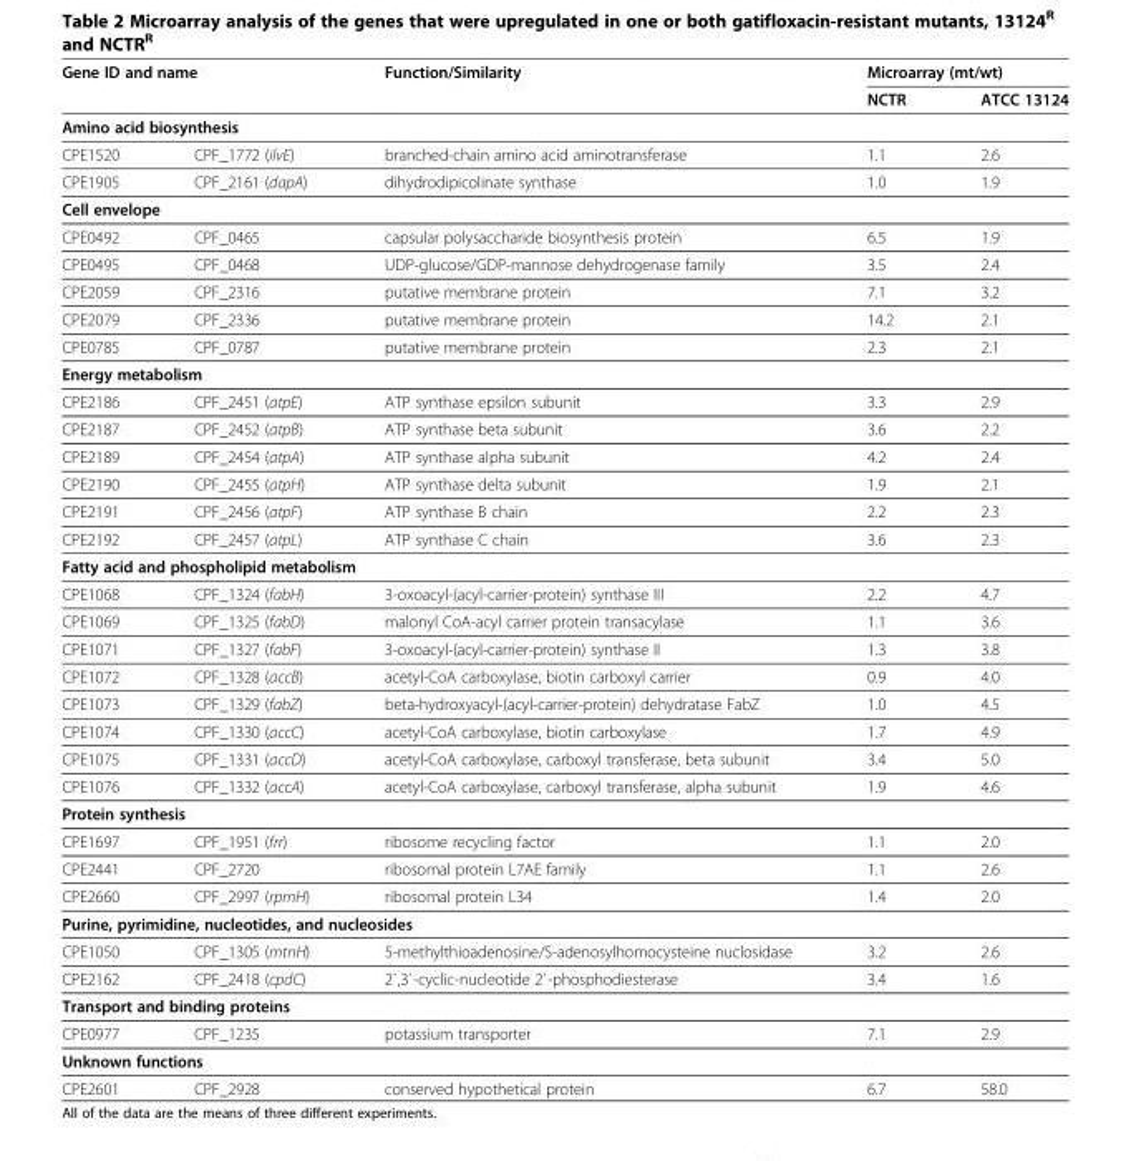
<table><thead><tr><td colspan="2">Gene ID and name</td><td rowspan="2">Function/Similarity</td><td colspan="2">Microarray (mt/wt)</td></tr><tr><td></td><td></td><td>NCTR</td><td>ATCC 13124</td></tr></thead><tbody><tr><td colspan="5">Amino acid biosynthesis</td></tr><tr><td>CPE1520</td><td>CPF_1772 (ilvE)</td><td>branched-chain amino acid aminotransferase</td><td>1.1</td><td>2.6</td></tr><tr><td>CPE1905</td><td>CPF_2161 (dapA)</td><td>dihydrodipicolinate synthase</td><td>1.0</td><td>1.9</td></tr><tr><td colspan="5">Cell envelope</td></tr><tr><td>CPE0492</td><td>CPF_0465</td><td>capsular polysaccharide biosynthesis protein</td><td>6.5</td><td>1.9</td></tr><tr><td>CPE0495</td><td>CPF_0468</td><td>UDP-glucose/GDP-mannose dehydrogenase family</td><td>3.5</td><td>2.4</td></tr><tr><td>CPE2059</td><td>CPF_2316</td><td>putative membrane protein</td><td>7.1</td><td>3.2</td></tr><tr><td>CPE2079</td><td>CPF_2336</td><td>putative membrane protein</td><td>14.2</td><td>2.1</td></tr><tr><td>CPE0785</td><td>CPF_0787</td><td>putative membrane protein</td><td>2.3</td><td>2.1</td></tr><tr><td colspan="5">Energy metabolism</td></tr><tr><td>CPE2186</td><td>CPF_2451 (atpE)</td><td>ATP synthase epsilon subunit</td><td>3.3</td><td>2.9</td></tr><tr><td>CPE2187</td><td>CPF_2452 (atpB)</td><td>ATP synthase beta subunit</td><td>3.6</td><td>2.2</td></tr><tr><td>CPE2189</td><td>CPF_2454 (atpA)</td><td>ATP synthase alpha subunit</td><td>4.2</td><td>2.4</td></tr><tr><td>CPE2190</td><td>CPF_2455 (atpH)</td><td>ATP synthase delta subunit</td><td>1.9</td><td>2.1</td></tr><tr><td>CPE2191</td><td>CPF_2456 (atpF)</td><td>ATP synthase B chain</td><td>2.2</td><td>2.3</td></tr><tr><td>CPE2192</td><td>CPF_2457 (atpL)</td><td>ATP synthase C chain</td><td>3.6</td><td>2.3</td></tr><tr><td colspan="5">Fatty acid and phospholipid metabolism</td></tr><tr><td>CPE1068</td><td>CPF_1324 (fabH)</td><td>3-oxoacyl-(acyl-carrier-protein) synthase III</td><td>2.2</td><td>4.7</td></tr><tr><td>CPE1069</td><td>CPF_1325 (fabD)</td><td>malonyl CoA-acyl carrier protein transacylase</td><td>1.1</td><td>3.6</td></tr><tr><td>CPE1071</td><td>CPF_1327 (fabF)</td><td>3-oxoacyl-(acyl-carrier-protein) synthase II</td><td>1.3</td><td>3.8</td></tr><tr><td>CPE1072</td><td>CPF_1328 (accB)</td><td>acetyl-CoA carboxylase, biotin carboxyl carrier</td><td>0.9</td><td>4.0</td></tr><tr><td>CPE1073</td><td>CPF_1329 (fabZ)</td><td>beta-hydroxyacyl-(acyl-carrier-protein) dehydratase FabZ</td><td>1.0</td><td>4.5</td></tr><tr><td>CPE1074</td><td>CPF_1330 (accC)</td><td>acetyl-CoA carboxylase, biotin carboxylase</td><td>1.7</td><td>4.9</td></tr><tr><td>CPE1075</td><td>CPF_1331 (accD)</td><td>acetyl-CoA carboxylase, carboxyl transferase, beta subunit</td><td>3.4</td><td>5.0</td></tr><tr><td>CPE1076</td><td>CPF_1332 (accA)</td><td>acetyl-CoA carboxylase, carboxyl transferase, alpha subunit</td><td>1.9</td><td>4.6</td></tr><tr><td colspan="5">Protein synthesis</td></tr><tr><td>CPE1697</td><td>CPF_1951 (frr)</td><td>ribosome recycling factor</td><td>1.1</td><td>2.0</td></tr><tr><td>CPE2441</td><td>CPF_2720</td><td>ribosomal protein L7AE family</td><td>1.1</td><td>2.6</td></tr><tr><td>CPE2660</td><td>CPF_2997 (rpmH)</td><td>ribosomal protein L34</td><td>1.4</td><td>2.0</td></tr><tr><td colspan="5">Purine, pyrimidine, nucleotides, and nucleosides</td></tr><tr><td>CPE1050</td><td>CPF_1305 (mtnH)</td><td>5-methylthioadenosine/S-adenosylhomocysteine nuclosidase</td><td>3.2</td><td>2.6</td></tr><tr><td>CPE2162</td><td>CPF_2418 (cpdC)</td><td>2`,3`-cyclic-nucleotide 2`-phosphodiesterase</td><td>3.4</td><td>1.6</td></tr><tr><td colspan="5">Transport and binding proteins</td></tr><tr><td>CPE0977</td><td>CPF_1235</td><td>potassium transporter</td><td>7.1</td><td>2.9</td></tr><tr><td colspan="5">Unknown functions</td></tr><tr><td>CPE2601</td><td>CPF_2928</td><td>conserved hypothetical protein</td><td>6.7</td><td>58.0</td></tr></tbody></table>